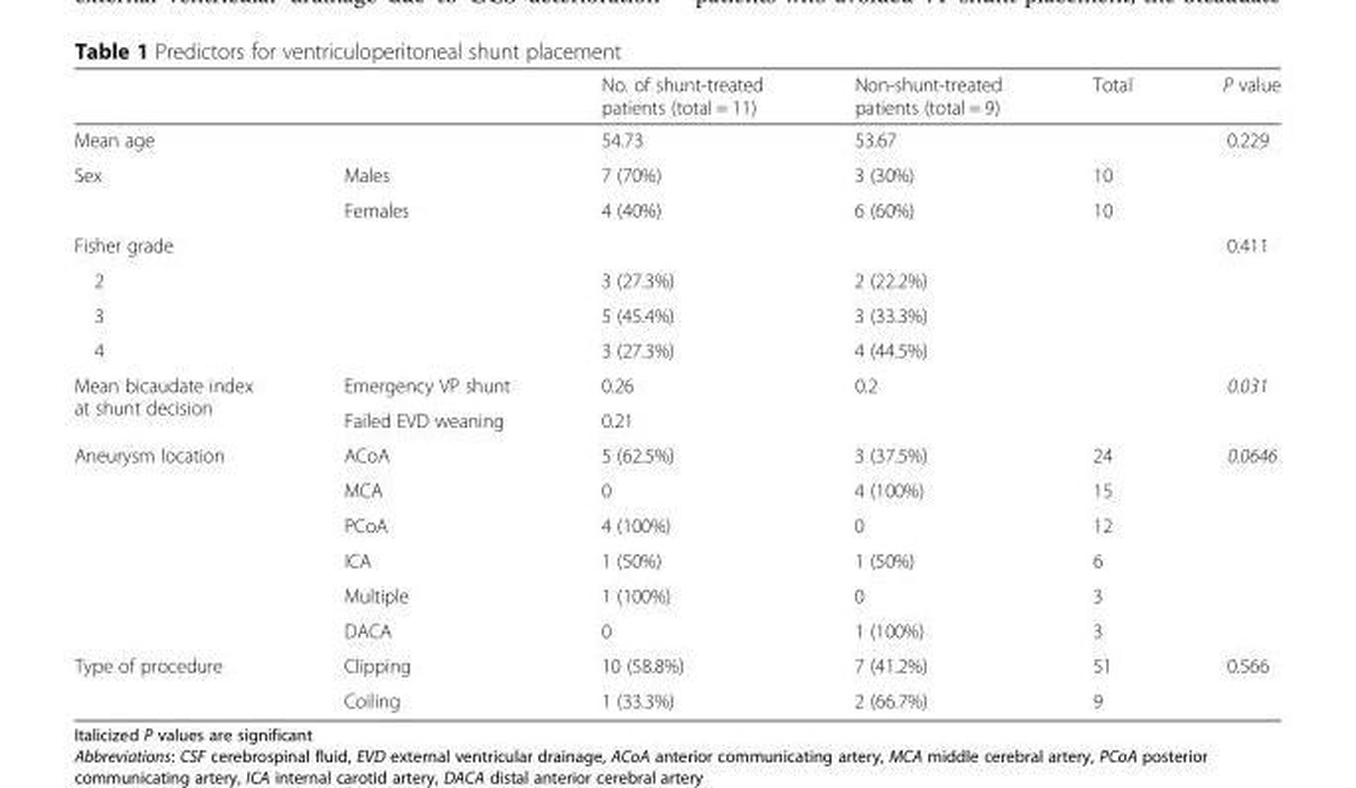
<table><thead><tr><td></td><td></td><td>No. of shunt-treated patients (total = 11)</td><td>Non-shunt-treated patients (total = 9)</td><td>Total</td><td>P value</td></tr></thead><tbody><tr><td colspan="2">Mean age</td><td>54.73</td><td>53.67</td><td></td><td>0.229</td></tr><tr><td rowspan="2">Sex</td><td>Males</td><td>7 (70%)</td><td>3 (30%)</td><td>10</td><td rowspan="2"></td></tr><tr><td>Females</td><td>4 (40%)</td><td>6 (60%)</td><td>10</td></tr><tr><td colspan="4">Fisher grade</td><td rowspan="4"></td><td rowspan="4">0.411</td></tr><tr><td>2</td><td></td><td>3 (27.3%)</td><td>2 (22.2%)</td></tr><tr><td>3</td><td></td><td>5 (45.4%)</td><td>3 (33.3%)</td></tr><tr><td>4</td><td></td><td>3 (27.3%)</td><td>4 (44.5%)</td></tr><tr><td rowspan="2">Mean bicaudate index at shunt decision</td><td>Emergency VP shunt</td><td>0.26</td><td rowspan="2">0.2</td><td rowspan="2"></td><td rowspan="2">0.031</td></tr><tr><td>Failed EVD weaning</td><td>0.21</td></tr><tr><td rowspan="6">Aneurysm location</td><td>ACoA</td><td>5 (62.5%)</td><td>3 (37.5%)</td><td>24</td><td rowspan="6">0.0646</td></tr><tr><td>MCA</td><td>0</td><td>4 (100%)</td><td>15</td></tr><tr><td>PCoA</td><td>4 (100%)</td><td>0</td><td>12</td></tr><tr><td>ICA</td><td>1 (50%)</td><td>1 (50%)</td><td>6</td></tr><tr><td>Multiple</td><td>1 (100%)</td><td>0</td><td>3</td></tr><tr><td>DACA</td><td>0</td><td>1 (100%)</td><td>3</td></tr><tr><td rowspan="2">Type of procedure</td><td>Clipping</td><td>10 (58.8%)</td><td>7 (41.2%)</td><td>51</td><td rowspan="2">0.566</td></tr><tr><td>Coiling</td><td>1 (33.3%)</td><td>2 (66.7%)</td><td>9</td></tr></tbody></table>